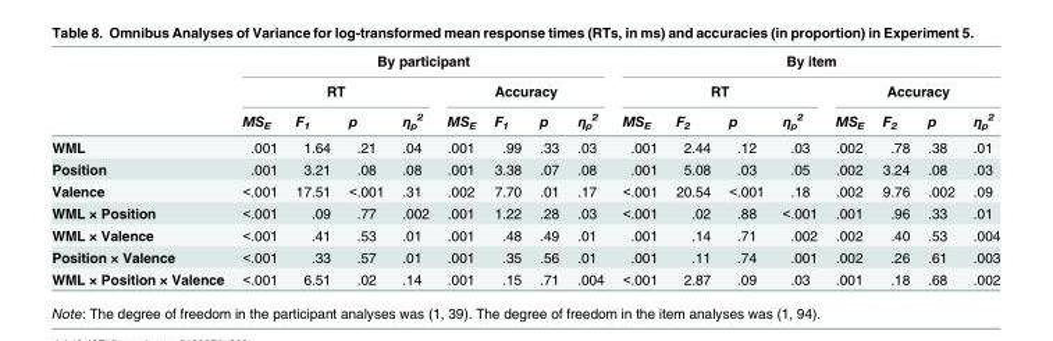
<table><thead><tr><td rowspan="3"></td><td colspan="8">By participant</td><td colspan="8">By item</td></tr><tr><td colspan="4">RT</td><td colspan="4">Accuracy</td><td colspan="4">RT</td><td colspan="4">Accuracy</td></tr><tr><td>MS<sub>E</sub></td><td>F<sub>1</sub></td><td>p</td><td>η<sub>p</sub> <sup>2</sup></td><td>MS<sub>E</sub></td><td>F<sub>1</sub></td><td>p</td><td>η<sub>p</sub> <sup>2</sup></td><td>MS<sub>E</sub></td><td>F<sub>2</sub></td><td>p</td><td>η<sub>p</sub> <sup>2</sup></td><td>MS<sub>E</sub></td><td>F<sub>2</sub></td><td>p</td><td>η<sub>p</sub> <sup>2</sup></td></tr></thead><tbody><tr><td>WML</td><td>.001</td><td>1.64</td><td>.21</td><td>.04</td><td>.001</td><td>.99</td><td>.33</td><td>.03</td><td>.001</td><td>2.44</td><td>.12</td><td>.03</td><td>.002</td><td>.78</td><td>.38</td><td>.01</td></tr><tr><td>Position</td><td>.001</td><td>3.21</td><td>.08</td><td>.08</td><td>.001</td><td>3.38</td><td>.07</td><td>.08</td><td>.001</td><td>5.08</td><td>.03</td><td>.05</td><td>.002</td><td>3.24</td><td>.08</td><td>.03</td></tr><tr><td>Valence</td><td>&lt;.001</td><td>17.51</td><td>&lt;.001</td><td>.31</td><td>.002</td><td>7.70</td><td>.01</td><td>.17</td><td>&lt;.001</td><td>20.54</td><td>&lt;.001</td><td>.18</td><td>.002</td><td>9.76</td><td>.002</td><td>.09</td></tr><tr><td>WML × Position</td><td>&lt;.001</td><td>.09</td><td>.77</td><td>.002</td><td>.001</td><td>1.22</td><td>.28</td><td>.03</td><td>&lt;.001</td><td>.02</td><td>.88</td><td>&lt;.001</td><td>.001</td><td>.96</td><td>.33</td><td>.01</td></tr><tr><td>WML × Valence</td><td>&lt;.001</td><td>.41</td><td>.53</td><td>.01</td><td>.001</td><td>.48</td><td>.49</td><td>.01</td><td>.001</td><td>.14</td><td>.71</td><td>.002</td><td>.002</td><td>.40</td><td>.53</td><td>.004</td></tr><tr><td>Position × Valence</td><td>&lt;.001</td><td>.33</td><td>.57</td><td>.01</td><td>.001</td><td>.35</td><td>.56</td><td>.01</td><td>.001</td><td>.11</td><td>.74</td><td>.001</td><td>.002</td><td>.26</td><td>.61</td><td>.003</td></tr><tr><td>WML × Position × Valence</td><td>&lt;.001</td><td>6.51</td><td>.02</td><td>.14</td><td>.001</td><td>.15</td><td>.71</td><td>.004</td><td>&lt;.001</td><td>2.87</td><td>.09</td><td>.03</td><td>.001</td><td>.18</td><td>.68</td><td>.002</td></tr></tbody></table>